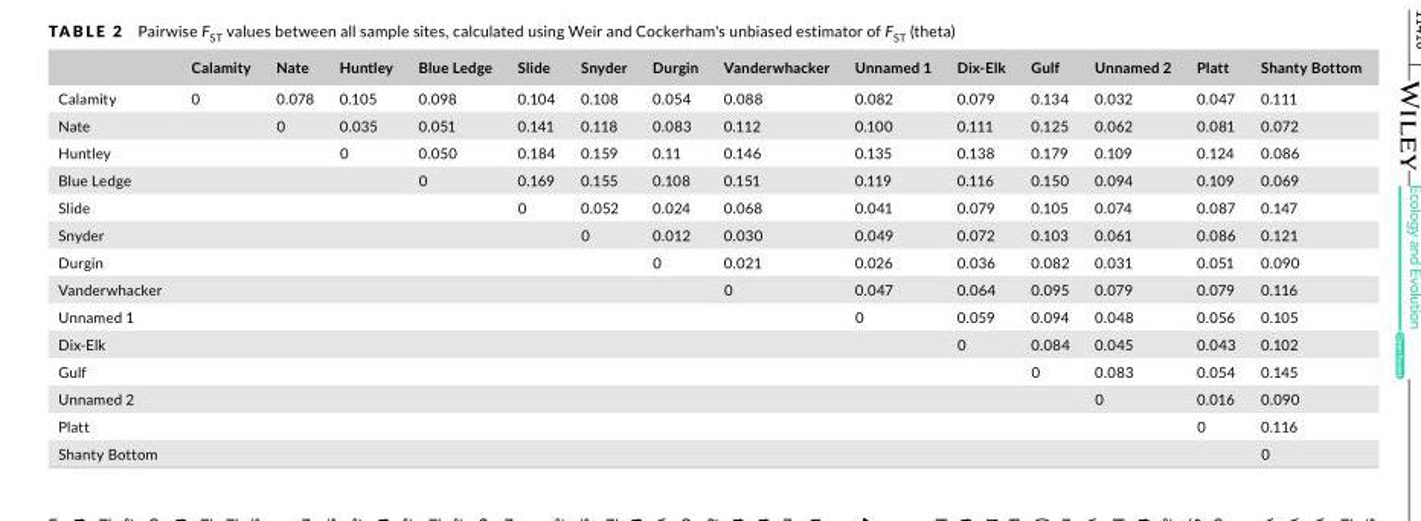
<table><thead><tr><td></td><td>Calamity</td><td>Nate</td><td>Huntley</td><td>Blue Ledge</td><td>Slide</td><td>Snyder</td><td>Durgin</td><td>Vanderwhacker</td><td>Unnamed 1</td><td>Dix‐Elk</td><td>Gulf</td><td>Unnamed 2</td><td>Platt</td><td>Shanty Bottom</td></tr></thead><tbody><tr><td>Calamity</td><td>0</td><td>0.078</td><td>0.105</td><td>0.098</td><td>0.104</td><td>0.108</td><td>0.054</td><td>0.088</td><td>0.082</td><td>0.079</td><td>0.134</td><td>0.032</td><td>0.047</td><td>0.111</td></tr><tr><td>Nate</td><td></td><td>0</td><td>0.035</td><td>0.051</td><td>0.141</td><td>0.118</td><td>0.083</td><td>0.112</td><td>0.100</td><td>0.111</td><td>0.125</td><td>0.062</td><td>0.081</td><td>0.072</td></tr><tr><td>Huntley</td><td></td><td></td><td>0</td><td>0.050</td><td>0.184</td><td>0.159</td><td>0.11</td><td>0.146</td><td>0.135</td><td>0.138</td><td>0.179</td><td>0.109</td><td>0.124</td><td>0.086</td></tr><tr><td>Blue Ledge</td><td></td><td></td><td></td><td>0</td><td>0.169</td><td>0.155</td><td>0.108</td><td>0.151</td><td>0.119</td><td>0.116</td><td>0.150</td><td>0.094</td><td>0.109</td><td>0.069</td></tr><tr><td>Slide</td><td></td><td></td><td></td><td></td><td>0</td><td>0.052</td><td>0.024</td><td>0.068</td><td>0.041</td><td>0.079</td><td>0.105</td><td>0.074</td><td>0.087</td><td>0.147</td></tr><tr><td>Snyder</td><td></td><td></td><td></td><td></td><td></td><td>0</td><td>0.012</td><td>0.030</td><td>0.049</td><td>0.072</td><td>0.103</td><td>0.061</td><td>0.086</td><td>0.121</td></tr><tr><td>Durgin</td><td></td><td></td><td></td><td></td><td></td><td></td><td>0</td><td>0.021</td><td>0.026</td><td>0.036</td><td>0.082</td><td>0.031</td><td>0.051</td><td>0.090</td></tr><tr><td>Vanderwhacker</td><td></td><td></td><td></td><td></td><td></td><td></td><td></td><td>0</td><td>0.047</td><td>0.064</td><td>0.095</td><td>0.079</td><td>0.079</td><td>0.116</td></tr><tr><td>Unnamed 1</td><td></td><td></td><td></td><td></td><td></td><td></td><td></td><td></td><td>0</td><td>0.059</td><td>0.094</td><td>0.048</td><td>0.056</td><td>0.105</td></tr><tr><td>Dix‐Elk</td><td></td><td></td><td></td><td></td><td></td><td></td><td></td><td></td><td></td><td>0</td><td>0.084</td><td>0.045</td><td>0.043</td><td>0.102</td></tr><tr><td>Gulf</td><td></td><td></td><td></td><td></td><td></td><td></td><td></td><td></td><td></td><td></td><td>0</td><td>0.083</td><td>0.054</td><td>0.145</td></tr><tr><td>Unnamed 2</td><td></td><td></td><td></td><td></td><td></td><td></td><td></td><td></td><td></td><td></td><td></td><td>0</td><td>0.016</td><td>0.090</td></tr><tr><td>Platt</td><td></td><td></td><td></td><td></td><td></td><td></td><td></td><td></td><td></td><td></td><td></td><td></td><td>0</td><td>0.116</td></tr><tr><td>Shanty Bottom</td><td></td><td></td><td></td><td></td><td></td><td></td><td></td><td></td><td></td><td></td><td></td><td></td><td></td><td>0</td></tr></tbody></table>